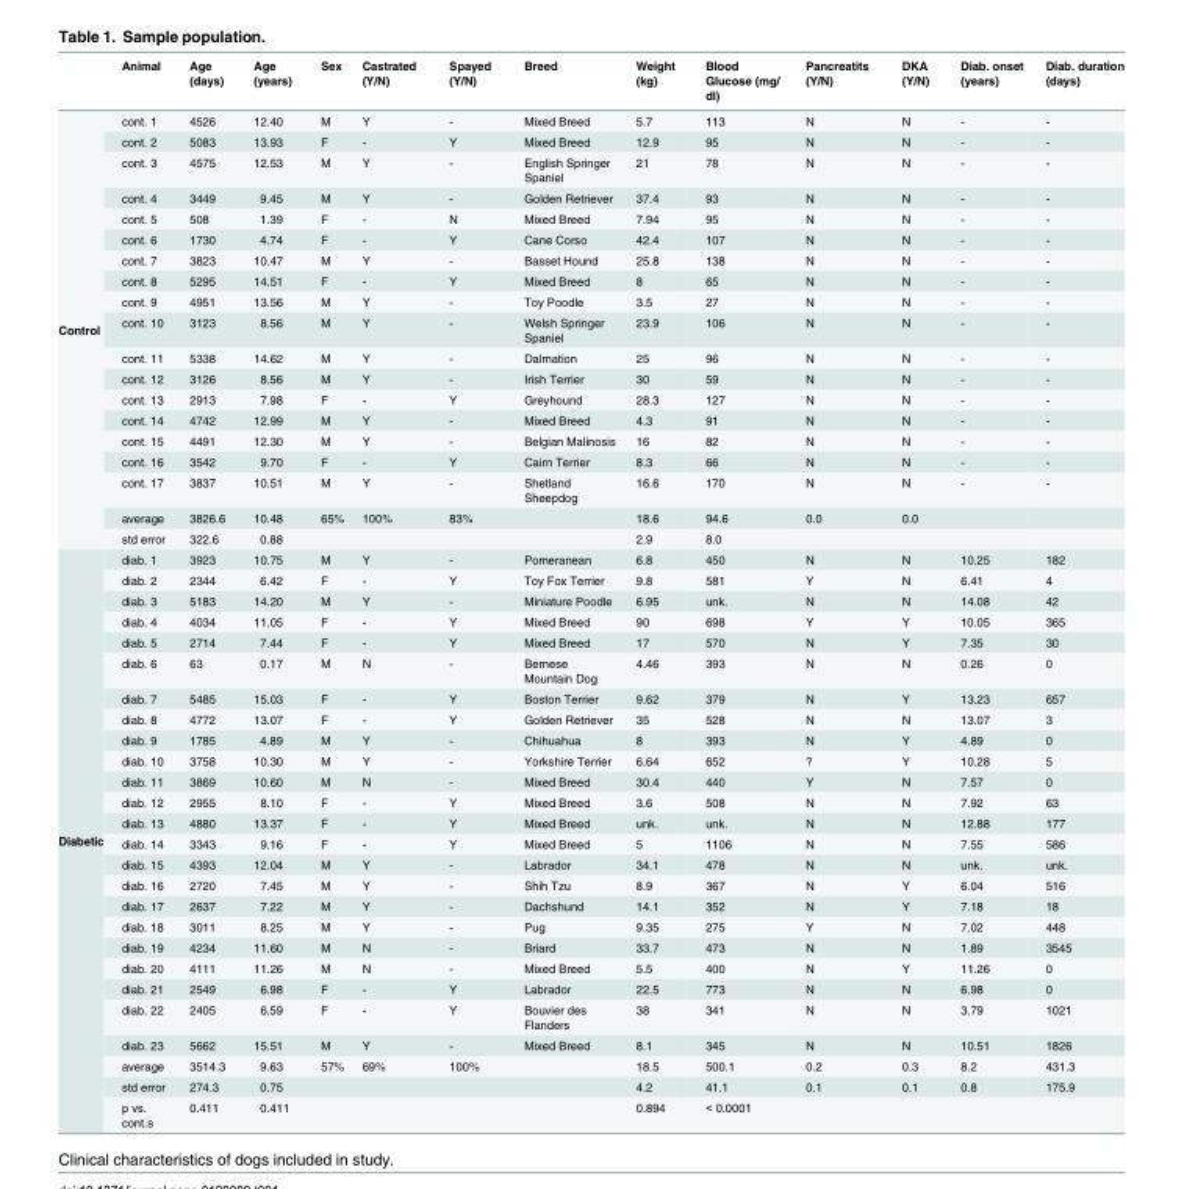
<table><thead><tr><td></td><td>Animal</td><td>Age (days)</td><td>Age (years)</td><td>Sex</td><td>Castrated (Y/N)</td><td>Spayed (Y/N)</td><td>Breed</td><td>Weight (kg)</td><td>Blood Glucose (mg/ dl)</td><td>Pancreatits (Y/N)</td><td>DKA (Y/N)</td><td>Diab. onset (years)</td><td>Diab. duration (days)</td></tr></thead><tbody><tr><td rowspan="19">Control</td><td>cont. 1</td><td>4526</td><td>12.40</td><td>M</td><td>Y</td><td>-</td><td>Mixed Breed</td><td>5.7</td><td>113</td><td>N</td><td>N</td><td>-</td><td>-</td></tr><tr><td>cont. 2</td><td>5083</td><td>13.93</td><td>F</td><td>-</td><td>Y</td><td>Mixed Breed</td><td>12.9</td><td>95</td><td>N</td><td>N</td><td>-</td><td>-</td></tr><tr><td>cont. 3</td><td>4575</td><td>12.53</td><td>M</td><td>Y</td><td>-</td><td>English Springer Spaniel</td><td>21</td><td>78</td><td>N</td><td>N</td><td>-</td><td>-</td></tr><tr><td>cont. 4</td><td>3449</td><td>9.45</td><td>M</td><td>Y</td><td>-</td><td>Golden Retriever</td><td>37.4</td><td>93</td><td>N</td><td>N</td><td>-</td><td>-</td></tr><tr><td>cont. 5</td><td>508</td><td>1.39</td><td>F</td><td>-</td><td>N</td><td>Mixed Breed</td><td>7.94</td><td>95</td><td>N</td><td>N</td><td>-</td><td>-</td></tr><tr><td>cont. 6</td><td>1730</td><td>4.74</td><td>F</td><td>-</td><td>Y</td><td>Cane Corso</td><td>42.4</td><td>107</td><td>N</td><td>N</td><td>-</td><td>-</td></tr><tr><td>cont. 7</td><td>3823</td><td>10.47</td><td>M</td><td>Y</td><td>-</td><td>Basset Hound</td><td>25.8</td><td>138</td><td>N</td><td>N</td><td>-</td><td>-</td></tr><tr><td>cont. 8</td><td>5295</td><td>14.51</td><td>F</td><td>-</td><td>Y</td><td>Mixed Breed</td><td>8</td><td>65</td><td>N</td><td>N</td><td>-</td><td>-</td></tr><tr><td>cont. 9</td><td>4951</td><td>13.56</td><td>M</td><td>Y</td><td>-</td><td>Toy Poodle</td><td>3.5</td><td>27</td><td>N</td><td>N</td><td>-</td><td>-</td></tr><tr><td>cont. 10</td><td>3123</td><td>8.56</td><td>M</td><td>Y</td><td>-</td><td>Welsh Springer Spaniel</td><td>23.9</td><td>106</td><td>N</td><td>N</td><td>-</td><td>-</td></tr><tr><td>cont. 11</td><td>5338</td><td>14.62</td><td>M</td><td>Y</td><td>-</td><td>Dalmation</td><td>25</td><td>96</td><td>N</td><td>N</td><td>-</td><td>-</td></tr><tr><td>cont. 12</td><td>3126</td><td>8.56</td><td>M</td><td>Y</td><td>-</td><td>Irish Terrier</td><td>30</td><td>59</td><td>N</td><td>N</td><td>-</td><td>-</td></tr><tr><td>cont. 13</td><td>2913</td><td>7.98</td><td>F</td><td>-</td><td>Y</td><td>Greyhound</td><td>28.3</td><td>127</td><td>N</td><td>N</td><td>-</td><td>-</td></tr><tr><td>cont. 14</td><td>4742</td><td>12.99</td><td>M</td><td>Y</td><td>-</td><td>Mixed Breed</td><td>4.3</td><td>91</td><td>N</td><td>N</td><td>-</td><td>-</td></tr><tr><td>cont. 15</td><td>4491</td><td>12.30</td><td>M</td><td>Y</td><td>-</td><td>Belgian Malinosis</td><td>16</td><td>82</td><td>N</td><td>N</td><td>-</td><td>-</td></tr><tr><td>cont. 16</td><td>3542</td><td>9.70</td><td>F</td><td>-</td><td>Y</td><td>Cairn Terrier</td><td>8.3</td><td>66</td><td>N</td><td>N</td><td>-</td><td>-</td></tr><tr><td>cont. 17</td><td>3837</td><td>10.51</td><td>M</td><td>Y</td><td>-</td><td>Shetland Sheepdog</td><td>16.6</td><td>170</td><td>N</td><td>N</td><td>-</td><td>-</td></tr><tr><td>average</td><td>3826.6</td><td>10.48</td><td>65%</td><td>100%</td><td>83%</td><td></td><td>18.6</td><td>94.6</td><td>0.0</td><td>0.0</td><td></td><td></td></tr><tr><td>std error</td><td>322.6</td><td>0.88</td><td></td><td></td><td></td><td></td><td>2.9</td><td>8.0</td><td></td><td></td><td></td><td></td></tr><tr><td rowspan="26">Diabetic</td><td>diab. 1</td><td>3923</td><td>10.75</td><td>M</td><td>Y</td><td>-</td><td>Pomeranean</td><td>6.8</td><td>450</td><td>N</td><td>N</td><td>10.25</td><td>182</td></tr><tr><td>diab. 2</td><td>2344</td><td>6.42</td><td>F</td><td>-</td><td>Y</td><td>Toy Fox Terrier</td><td>9.8</td><td>581</td><td>Y</td><td>N</td><td>6.41</td><td>4</td></tr><tr><td>diab. 3</td><td>5183</td><td>14.20</td><td>M</td><td>Y</td><td>-</td><td>Miniature Poodle</td><td>6.95</td><td>unk.</td><td>N</td><td>N</td><td>14.08</td><td>42</td></tr><tr><td>diab. 4</td><td>4034</td><td>11.05</td><td>F</td><td>-</td><td>Y</td><td>Mixed Breed</td><td>90</td><td>698</td><td>Y</td><td>Y</td><td>10.05</td><td>365</td></tr><tr><td>diab. 5</td><td>2714</td><td>7.44</td><td>F</td><td>-</td><td>Y</td><td>Mixed Breed</td><td>17</td><td>570</td><td>N</td><td>Y</td><td>7.35</td><td>30</td></tr><tr><td>diab. 6</td><td>63</td><td>0.17</td><td>M</td><td>N</td><td>-</td><td>Bernese Mountain Dog</td><td>4.46</td><td>393</td><td>N</td><td>N</td><td>0.26</td><td>0</td></tr><tr><td>diab. 7</td><td>5485</td><td>15.03</td><td>F</td><td>-</td><td>Y</td><td>Boston Terrier</td><td>9.62</td><td>379</td><td>N</td><td>Y</td><td>13.23</td><td>657</td></tr><tr><td>diab. 8</td><td>4772</td><td>13.07</td><td>F</td><td>-</td><td>Y</td><td>Golden Retriever</td><td>35</td><td>528</td><td>N</td><td>N</td><td>13.07</td><td>3</td></tr><tr><td>diab. 9</td><td>1785</td><td>4.89</td><td>M</td><td>Y</td><td>-</td><td>Chihuahua</td><td>8</td><td>393</td><td>N</td><td>Y</td><td>4.89</td><td>0</td></tr><tr><td>diab. 10</td><td>3758</td><td>10.30</td><td>M</td><td>Y</td><td>-</td><td>Yorkshire Terrier</td><td>6.64</td><td>652</td><td>?</td><td>Y</td><td>10.28</td><td>5</td></tr><tr><td>diab. 11</td><td>3869</td><td>10.60</td><td>M</td><td>N</td><td>-</td><td>Mixed Breed</td><td>30.4</td><td>440</td><td>Y</td><td>N</td><td>7.57</td><td>0</td></tr><tr><td>diab. 12</td><td>2955</td><td>8.10</td><td>F</td><td>-</td><td>Y</td><td>Mixed Breed</td><td>3.6</td><td>508</td><td>N</td><td>N</td><td>7.92</td><td>63</td></tr><tr><td>diab. 13</td><td>4880</td><td>13.37</td><td>F</td><td>-</td><td>Y</td><td>Mixed Breed</td><td>unk.</td><td>unk.</td><td>N</td><td>N</td><td>12.88</td><td>177</td></tr><tr><td>diab. 14</td><td>3343</td><td>9.16</td><td>F</td><td>-</td><td>Y</td><td>Mixed Breed</td><td>5</td><td>1106</td><td>N</td><td>N</td><td>7.55</td><td>586</td></tr><tr><td>diab. 15</td><td>4393</td><td>12.04</td><td>M</td><td>Y</td><td>-</td><td>Labrador</td><td>34.1</td><td>478</td><td>N</td><td>N</td><td>unk.</td><td>unk.</td></tr><tr><td>diab. 16</td><td>2720</td><td>7.45</td><td>M</td><td>Y</td><td>-</td><td>Shih Tzu</td><td>8.9</td><td>367</td><td>N</td><td>Y</td><td>6.04</td><td>516</td></tr><tr><td>diab. 17</td><td>2637</td><td>7.22</td><td>M</td><td>Y</td><td>-</td><td>Dachshund</td><td>14.1</td><td>352</td><td>N</td><td>Y</td><td>7.18</td><td>18</td></tr><tr><td>diab. 18</td><td>3011</td><td>8.25</td><td>M</td><td>Y</td><td>-</td><td>Pug</td><td>9.35</td><td>275</td><td>Y</td><td>N</td><td>7.02</td><td>448</td></tr><tr><td>diab. 19</td><td>4234</td><td>11.60</td><td>M</td><td>N</td><td>-</td><td>Briard</td><td>33.7</td><td>473</td><td>N</td><td>N</td><td>1.89</td><td>3545</td></tr><tr><td>diab. 20</td><td>4111</td><td>11.26</td><td>M</td><td>N</td><td>-</td><td>Mixed Breed</td><td>5.5</td><td>400</td><td>N</td><td>Y</td><td>11.26</td><td>0</td></tr><tr><td>diab. 21</td><td>2549</td><td>6.98</td><td>F</td><td>-</td><td>Y</td><td>Labrador</td><td>22.5</td><td>773</td><td>N</td><td>N</td><td>6.98</td><td>0</td></tr><tr><td>diab. 22</td><td>2405</td><td>6.59</td><td>F</td><td>-</td><td>Y</td><td>Bouvier des Flanders</td><td>38</td><td>341</td><td>N</td><td>N</td><td>3.79</td><td>1021</td></tr><tr><td>diab. 23</td><td>5662</td><td>15.51</td><td>M</td><td>Y</td><td>-</td><td>Mixed Breed</td><td>8.1</td><td>345</td><td>N</td><td>N</td><td>10.51</td><td>1826</td></tr><tr><td>average</td><td>3514.3</td><td>9.63</td><td>57%</td><td>69%</td><td>100%</td><td></td><td>18.5</td><td>500.1</td><td>0.2</td><td>0.3</td><td>8.2</td><td>431.3</td></tr><tr><td>std error</td><td>274.3</td><td>0.75</td><td></td><td></td><td></td><td></td><td>4.2</td><td>41.1</td><td>0.1</td><td>0.1</td><td>0.8</td><td>175.9</td></tr><tr><td>p vs. cont.s</td><td>0.411</td><td>0.411</td><td></td><td></td><td></td><td></td><td>0.894</td><td>&lt; 0.0001</td><td></td><td></td><td></td><td></td></tr></tbody></table>